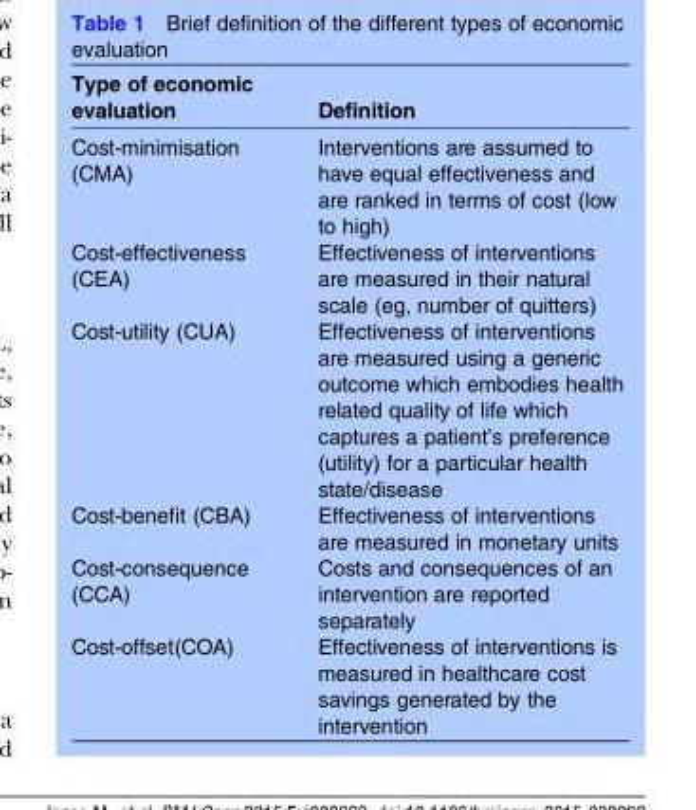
<table><thead><tr><td>Type of economic evaluation</td><td>Definition</td></tr></thead><tbody><tr><td>Cost-minimisation (CMA)</td><td>Interventions are assumed to have equal effectiveness and are ranked in terms of cost (low to high)</td></tr><tr><td>Cost-effectiveness (CEA)</td><td>Effectiveness of interventions are measured in their natural scale (eg, number of quitters)</td></tr><tr><td>Cost-utility (CUA)</td><td>Effectiveness of interventions are measured using a generic outcome which embodies health related quality of life which captures a patient’s preference (utility) for a particular health state/disease</td></tr><tr><td>Cost-benefit (CBA)</td><td>Effectiveness of interventions are measured in monetary units</td></tr><tr><td>Cost-consequence (CCA)</td><td>Costs and consequences of an intervention are reported separately</td></tr><tr><td>Cost-offset(COA)</td><td>Effectiveness of interventions is measured in healthcare cost savings generated by the intervention</td></tr></tbody></table>